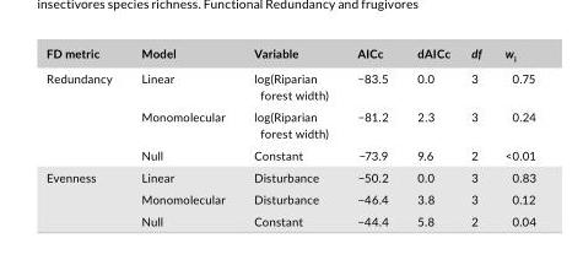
<table><thead><tr><td>FD metric</td><td>Model</td><td>Variable</td><td>AICc</td><td>dAICc</td><td>df</td><td>w<sub>i</sub></td></tr></thead><tbody><tr><td rowspan="3">Redundancy</td><td>Linear</td><td>log(Riparian forest width)</td><td>−83.5</td><td>0.0</td><td>3</td><td>0.75</td></tr><tr><td>Monomolecular</td><td>log(Riparian forest width)</td><td>−81.2</td><td>2.3</td><td>3</td><td>0.24</td></tr><tr><td>Null</td><td>Constant</td><td>−73.9</td><td>9.6</td><td>2</td><td>&lt;0.01</td></tr><tr><td rowspan="3">Evenness</td><td>Linear</td><td>Disturbance</td><td>−50.2</td><td>0.0</td><td>3</td><td>0.83</td></tr><tr><td>Monomolecular</td><td>Disturbance</td><td>−46.4</td><td>3.8</td><td>3</td><td>0.12</td></tr><tr><td>Null</td><td>Constant</td><td>−44.4</td><td>5.8</td><td>2</td><td>0.04</td></tr></tbody></table>